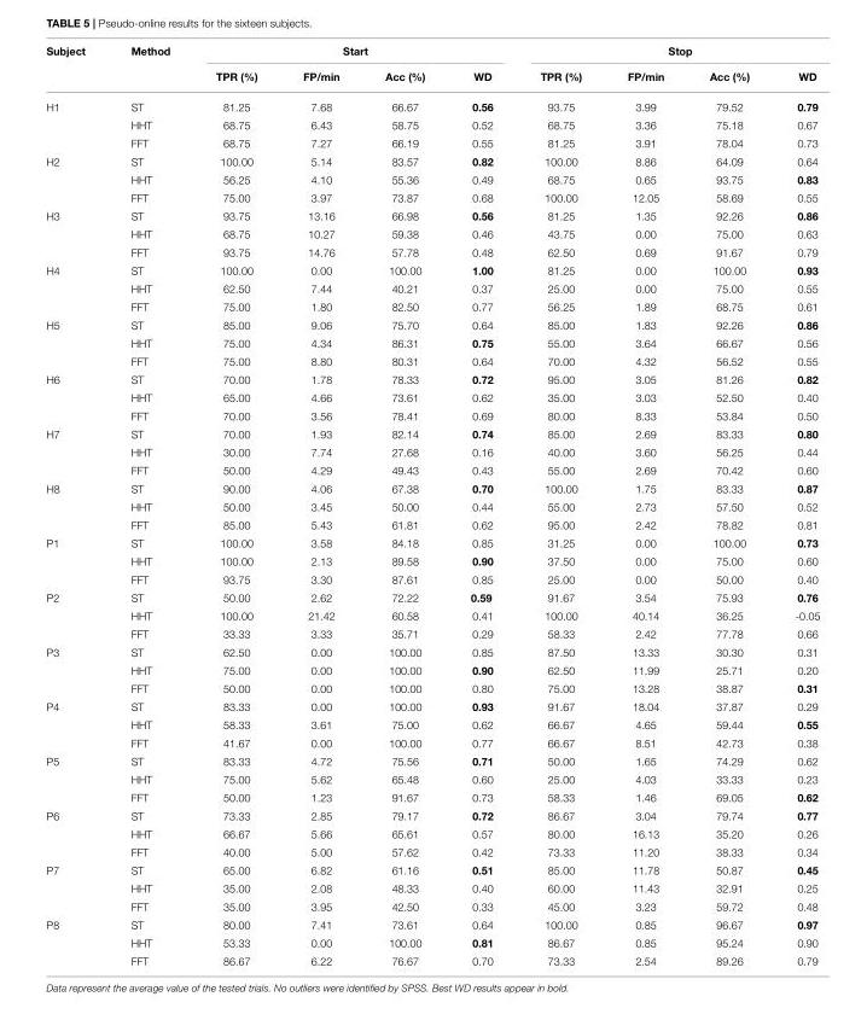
<table><thead><tr><td rowspan="2">Subject</td><td rowspan="2">Method</td><td colspan="4">Start</td><td colspan="4">Stop</td></tr><tr><td>TPR (%)</td><td>FP/min</td><td>Acc (%)</td><td>WD</td><td>TPR (%)</td><td>FP/min</td><td>Acc (%)</td><td>WD</td></tr></thead><tbody><tr><td rowspan="3">H1</td><td>ST</td><td>81.25</td><td>7.68</td><td>66.67</td><td>0.56</td><td>93.75</td><td>3.99</td><td>79.52</td><td>0.79</td></tr><tr><td>HHT</td><td>68.75</td><td>6.43</td><td>58.75</td><td>0.52</td><td>68.75</td><td>3.36</td><td>75.18</td><td>0.67</td></tr><tr><td>FFT</td><td>68.75</td><td>7.27</td><td>66.19</td><td>0.55</td><td>81.25</td><td>3.91</td><td>78.04</td><td>0.73</td></tr><tr><td rowspan="3">H2</td><td>ST</td><td>100.00</td><td>5.14</td><td>83.57</td><td>0.82</td><td>100.00</td><td>8.86</td><td>64.09</td><td>0.64</td></tr><tr><td>HHT</td><td>56.25</td><td>4.10</td><td>55.36</td><td>0.49</td><td>68.75</td><td>0.65</td><td>93.75</td><td>0.83</td></tr><tr><td>FFT</td><td>75.00</td><td>3.97</td><td>73.87</td><td>0.68</td><td>100.00</td><td>12.05</td><td>58.69</td><td>0.55</td></tr><tr><td rowspan="3">H3</td><td>ST</td><td>93.75</td><td>13.16</td><td>66.98</td><td>0.56</td><td>81.25</td><td>1.35</td><td>92.26</td><td>0.86</td></tr><tr><td>HHT</td><td>68.75</td><td>10.27</td><td>59.38</td><td>0.46</td><td>43.75</td><td>0.00</td><td>75.00</td><td>0.63</td></tr><tr><td>FFT</td><td>93.75</td><td>14.76</td><td>57.78</td><td>0.48</td><td>62.50</td><td>0.69</td><td>91.67</td><td>0.79</td></tr><tr><td rowspan="3">H4</td><td>ST</td><td>100.00</td><td>0.00</td><td>100.00</td><td>1.00</td><td>81.25</td><td>0.00</td><td>100.00</td><td>0.93</td></tr><tr><td>HHT</td><td>62.50</td><td>7.44</td><td>40.21</td><td>0.37</td><td>25.00</td><td>0.00</td><td>75.00</td><td>0.55</td></tr><tr><td>FFT</td><td>75.00</td><td>1.80</td><td>82.50</td><td>0.77</td><td>56.25</td><td>1.89</td><td>68.75</td><td>0.61</td></tr><tr><td rowspan="3">H5</td><td>ST</td><td>85.00</td><td>9.06</td><td>75.70</td><td>0.64</td><td>85.00</td><td>1.83</td><td>92.26</td><td>0.86</td></tr><tr><td>HHT</td><td>75.00</td><td>4.34</td><td>86.31</td><td>0.75</td><td>55.00</td><td>3.64</td><td>66.67</td><td>0.56</td></tr><tr><td>FFT</td><td>75.00</td><td>8.80</td><td>80.31</td><td>0.64</td><td>70.00</td><td>4.32</td><td>56.52</td><td>0.55</td></tr><tr><td rowspan="3">H6</td><td>ST</td><td>70.00</td><td>1.78</td><td>78.33</td><td>0.72</td><td>95.00</td><td>3.05</td><td>81.26</td><td>0.82</td></tr><tr><td>HHT</td><td>65.00</td><td>4.66</td><td>73.61</td><td>0.62</td><td>35.00</td><td>3.03</td><td>52.50</td><td>0.40</td></tr><tr><td>FFT</td><td>70.00</td><td>3.56</td><td>78.41</td><td>0.69</td><td>80.00</td><td>8.33</td><td>53.84</td><td>0.50</td></tr><tr><td rowspan="3">H7</td><td>ST</td><td>70.00</td><td>1.93</td><td>82.14</td><td>0.74</td><td>85.00</td><td>2.69</td><td>83.33</td><td>0.80</td></tr><tr><td>HHT</td><td>30.00</td><td>7.74</td><td>27.68</td><td>0.16</td><td>40.00</td><td>3.60</td><td>56.25</td><td>0.44</td></tr><tr><td>FFT</td><td>50.00</td><td>4.29</td><td>49.43</td><td>0.43</td><td>55.00</td><td>2.69</td><td>70.42</td><td>0.60</td></tr><tr><td rowspan="3">H8</td><td>ST</td><td>90.00</td><td>4.06</td><td>67.38</td><td>0.70</td><td>100.00</td><td>1.75</td><td>83.33</td><td>0.87</td></tr><tr><td>HHT</td><td>50.00</td><td>3.45</td><td>50.00</td><td>0.44</td><td>55.00</td><td>2.73</td><td>57.50</td><td>0.52</td></tr><tr><td>FFT</td><td>85.00</td><td>5.43</td><td>61.81</td><td>0.62</td><td>95.00</td><td>2.42</td><td>78.82</td><td>0.81</td></tr><tr><td rowspan="3">P1</td><td>ST</td><td>100.00</td><td>3.58</td><td>84.18</td><td>0.85</td><td>31.25</td><td>0.00</td><td>100.00</td><td>0.73</td></tr><tr><td>HHT</td><td>100.00</td><td>2.13</td><td>89.58</td><td>0.90</td><td>37.50</td><td>0.00</td><td>75.00</td><td>0.60</td></tr><tr><td>FFT</td><td>93.75</td><td>3.30</td><td>87.61</td><td>0.85</td><td>25.00</td><td>0.00</td><td>50.00</td><td>0.40</td></tr><tr><td rowspan="3">P2</td><td>ST</td><td>50.00</td><td>2.62</td><td>72.22</td><td>0.59</td><td>91.67</td><td>3.54</td><td>75.93</td><td>0.76</td></tr><tr><td>HHT</td><td>100.00</td><td>21.42</td><td>60.58</td><td>0.41</td><td>100.00</td><td>40.14</td><td>36.25</td><td>-0.05</td></tr><tr><td>FFT</td><td>33.33</td><td>3.33</td><td>35.71</td><td>0.29</td><td>58.33</td><td>2.42</td><td>77.78</td><td>0.66</td></tr><tr><td rowspan="3">P3</td><td>ST</td><td>62.50</td><td>0.00</td><td>100.00</td><td>0.85</td><td>87.50</td><td>13.33</td><td>30.30</td><td>0.31</td></tr><tr><td>HHT</td><td>75.00</td><td>0.00</td><td>100.00</td><td>0.90</td><td>62.50</td><td>11.99</td><td>25.71</td><td>0.20</td></tr><tr><td>FFT</td><td>50.00</td><td>0.00</td><td>100.00</td><td>0.80</td><td>75.00</td><td>13.28</td><td>38.87</td><td>0.31</td></tr><tr><td rowspan="3">P4</td><td>ST</td><td>83.33</td><td>0.00</td><td>100.00</td><td>0.93</td><td>91.67</td><td>18.04</td><td>37.87</td><td>0.29</td></tr><tr><td>HHT</td><td>58.33</td><td>3.61</td><td>75.00</td><td>0.62</td><td>66.67</td><td>4.65</td><td>59.44</td><td>0.55</td></tr><tr><td>FFT</td><td>41.67</td><td>0.00</td><td>100.00</td><td>0.77</td><td>66.67</td><td>8.51</td><td>42.73</td><td>0.38</td></tr><tr><td rowspan="3">P5</td><td>ST</td><td>83.33</td><td>4.72</td><td>75.56</td><td>0.71</td><td>50.00</td><td>1.65</td><td>74.29</td><td>0.62</td></tr><tr><td>HHT</td><td>75.00</td><td>5.62</td><td>65.48</td><td>0.60</td><td>25.00</td><td>4.03</td><td>33.33</td><td>0.23</td></tr><tr><td>FFT</td><td>50.00</td><td>1.23</td><td>91.67</td><td>0.73</td><td>58.33</td><td>1.46</td><td>69.05</td><td>0.62</td></tr><tr><td rowspan="3">P6</td><td>ST</td><td>73.33</td><td>2.85</td><td>79.17</td><td>0.72</td><td>86.67</td><td>3.04</td><td>79.74</td><td>0.77</td></tr><tr><td>HHT</td><td>66.67</td><td>5.66</td><td>65.61</td><td>0.57</td><td>80.00</td><td>16.13</td><td>35.20</td><td>0.26</td></tr><tr><td>FFT</td><td>40.00</td><td>5.00</td><td>57.62</td><td>0.42</td><td>73.33</td><td>11.20</td><td>38.33</td><td>0.34</td></tr><tr><td rowspan="3">P7</td><td>ST</td><td>65.00</td><td>6.82</td><td>61.16</td><td>0.51</td><td>85.00</td><td>11.78</td><td>50.87</td><td>0.45</td></tr><tr><td>HHT</td><td>35.00</td><td>2.08</td><td>48.33</td><td>0.40</td><td>60.00</td><td>11.43</td><td>32.91</td><td>0.25</td></tr><tr><td>FFT</td><td>35.00</td><td>3.95</td><td>42.50</td><td>0.33</td><td>45.00</td><td>3.23</td><td>59.72</td><td>0.48</td></tr><tr><td rowspan="3">P8</td><td>ST</td><td>80.00</td><td>7.41</td><td>73.61</td><td>0.64</td><td>100.00</td><td>0.85</td><td>96.67</td><td>0.97</td></tr><tr><td>HHT</td><td>53.33</td><td>0.00</td><td>100.00</td><td>0.81</td><td>86.67</td><td>0.85</td><td>95.24</td><td>0.90</td></tr><tr><td>FFT</td><td>86.67</td><td>6.22</td><td>76.67</td><td>0.70</td><td>73.33</td><td>2.54</td><td>89.26</td><td>0.79</td></tr></tbody></table>